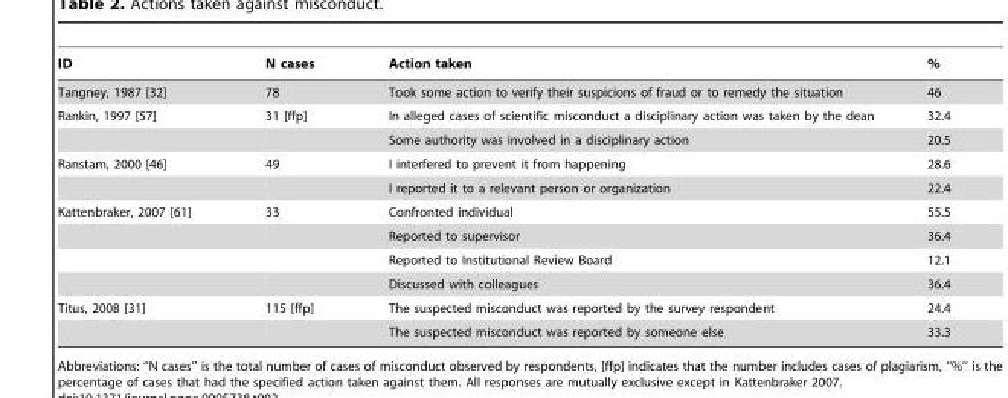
<table><thead><tr><td>ID</td><td>N cases</td><td>Action taken</td><td>%</td></tr></thead><tbody><tr><td>Tangney, 1987 [32]</td><td>78</td><td>Took some action to verify their suspicions of fraud or to remedy the situation</td><td>46</td></tr><tr><td rowspan="2">Rankin, 1997 [57]</td><td>31 [ffp]</td><td>In alleged cases of scientific misconduct a disciplinary action was taken by the dean</td><td>32.4</td></tr><tr><td></td><td>Some authority was involved in a disciplinary action</td><td>20.5</td></tr><tr><td rowspan="2">Ranstam, 2000 [46]</td><td>49</td><td>I interfered to prevent it from happening</td><td>28.6</td></tr><tr><td></td><td>I reported it to a relevant person or organization</td><td>22.4</td></tr><tr><td rowspan="4">Kattenbraker, 2007 [61]</td><td>33</td><td>Confronted individual</td><td>55.5</td></tr><tr><td></td><td>Reported to supervisor</td><td>36.4</td></tr><tr><td></td><td>Reported to Institutional Review Board</td><td>12.1</td></tr><tr><td></td><td>Discussed with colleagues</td><td>36.4</td></tr><tr><td rowspan="2">Titus, 2008 [31]</td><td>115 [ffp]</td><td>The suspected misconduct was reported by the survey respondent</td><td>24.4</td></tr><tr><td></td><td>The suspected misconduct was reported by someone else</td><td>33.3</td></tr></tbody></table>